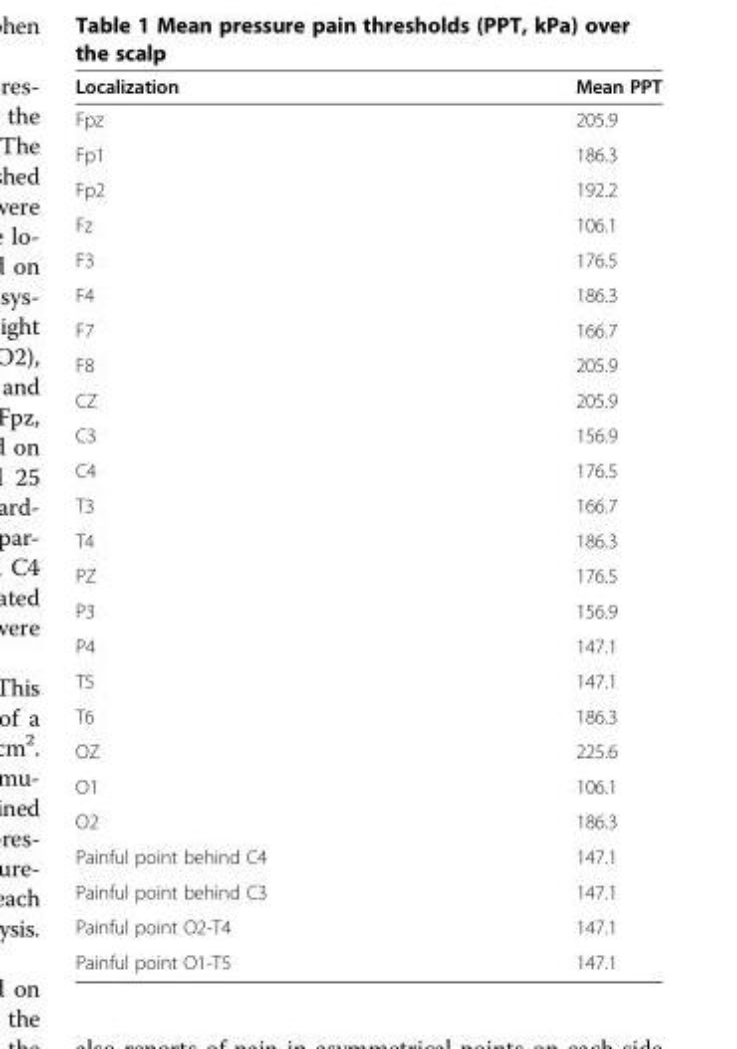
<table><thead><tr><td>Localization</td><td>Mean PPT</td></tr></thead><tbody><tr><td>Fpz</td><td>205.9</td></tr><tr><td>Fp1</td><td>186.3</td></tr><tr><td>Fp2</td><td>192.2</td></tr><tr><td>Fz</td><td>106.1</td></tr><tr><td>F3</td><td>176.5</td></tr><tr><td>F4</td><td>186.3</td></tr><tr><td>F7</td><td>166.7</td></tr><tr><td>F8</td><td>205.9</td></tr><tr><td>CZ</td><td>205.9</td></tr><tr><td>C3</td><td>156.9</td></tr><tr><td>C4</td><td>176.5</td></tr><tr><td>T3</td><td>166.7</td></tr><tr><td>T4</td><td>186.3</td></tr><tr><td>PZ</td><td>176.5</td></tr><tr><td>P3</td><td>156.9</td></tr><tr><td>P4</td><td>147.1</td></tr><tr><td>T5</td><td>147.1</td></tr><tr><td>T6</td><td>186.3</td></tr><tr><td>OZ</td><td>225.6</td></tr><tr><td>O1</td><td>106.1</td></tr><tr><td>O2</td><td>186.3</td></tr><tr><td>Painful point behind C4</td><td>147.1</td></tr><tr><td>Painful point behind C3</td><td>147.1</td></tr><tr><td>Painful point O2-T4</td><td>147.1</td></tr><tr><td>Painful point O1-T5</td><td>147.1</td></tr></tbody></table>